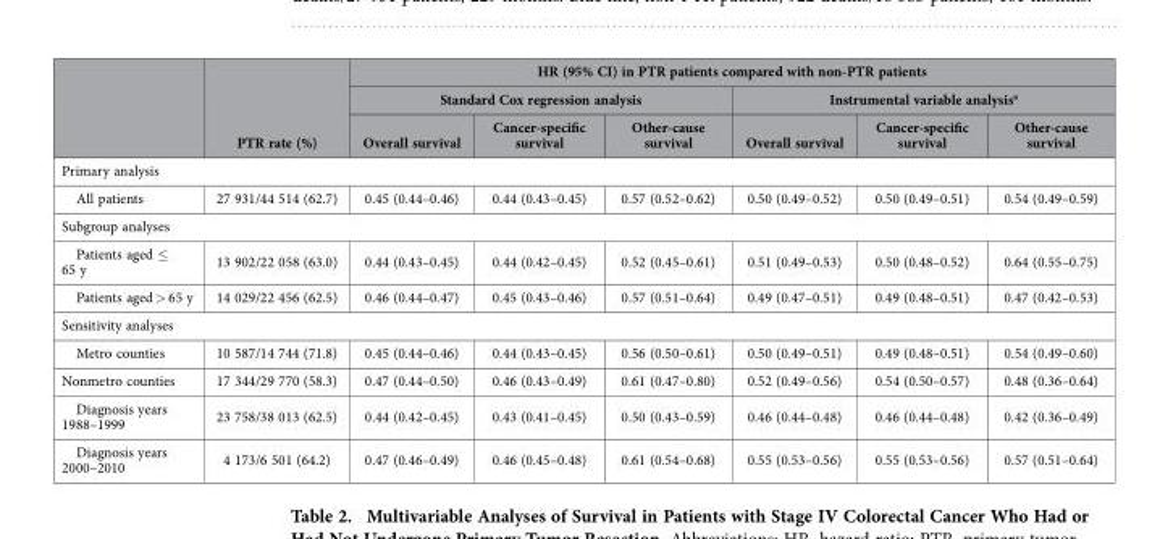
<table><thead><tr><td rowspan="3"></td><td rowspan="3">PTR rate (%)</td><td colspan="6">HR (95% CI) in PTR patients compared with non-PTR patients</td></tr><tr><td colspan="3">Standard Cox regression analysis</td><td colspan="3">Instrumental variable analysis<sup>a</sup></td></tr><tr><td>Overall survival</td><td>Cancer-specific survival</td><td>Other-cause survival</td><td>Overall survival</td><td>Cancer-specific survival</td><td>Other-cause survival</td></tr></thead><tbody><tr><td colspan="8">Primary analysis</td></tr><tr><td>All patients</td><td>27 931/44 514 (62.7)</td><td>0.45 (0.44–0.46)</td><td>0.44 (0.43–0.45)</td><td>0.57 (0.52–0.62)</td><td>0.50 (0.49–0.52)</td><td>0.50 (0.49–0.51)</td><td>0.54 (0.49–0.59)</td></tr><tr><td colspan="8">Subgroup analyses</td></tr><tr><td>Patients aged ≤ 65 y</td><td>13 902/22 058 (63.0)</td><td>0.44 (0.43–0.45)</td><td>0.44 (0.42–0.45)</td><td>0.52 (0.45–0.61)</td><td>0.51 (0.49–0.53)</td><td>0.50 (0.48–0.52)</td><td>0.64 (0.55–0.75)</td></tr><tr><td>Patients aged &gt; 65 y</td><td>14 029/22 456 (62.5)</td><td>0.46 (0.44–0.47)</td><td>0.45 (0.43–0.46)</td><td>0.57 (0.51–0.64)</td><td>0.49 (0.47–0.51)</td><td>0.49 (0.48–0.51)</td><td>0.47 (0.42–0.53)</td></tr><tr><td colspan="8">Sensitivity analyses</td></tr><tr><td>Metro counties</td><td>10 587/14 744 (71.8)</td><td>0.45 (0.44–0.46)</td><td>0.44 (0.43–0.45)</td><td>0.56 (0.50–0.61)</td><td>0.50 (0.49–0.51)</td><td>0.49 (0.48–0.51)</td><td>0.54 (0.49–0.60)</td></tr><tr><td>Nonmetro counties</td><td>17 344/29 770 (58.3)</td><td>0.47 (0.44–0.50)</td><td>0.46 (0.43–0.49)</td><td>0.61 (0.47–0.80)</td><td>0.52 (0.49–0.56)</td><td>0.54 (0.50–0.57)</td><td>0.48 (0.36–0.64)</td></tr><tr><td>Diagnosis years 1988–1999</td><td>23 758/38 013 (62.5)</td><td>0.44 (0.42–0.45)</td><td>0.43 (0.41–0.45)</td><td>0.50 (0.43–0.59)</td><td>0.46 (0.44–0.48)</td><td>0.46 (0.44–0.48)</td><td>0.42 (0.36–0.49)</td></tr><tr><td>Diagnosis years 2000–2010</td><td>4 173/6 501 (64.2)</td><td>0.47 (0.46–0.49)</td><td>0.46 (0.45–0.48)</td><td>0.61 (0.54–0.68)</td><td>0.55 (0.53–0.56)</td><td>0.55 (0.53–0.56)</td><td>0.57 (0.51–0.64)</td></tr></tbody></table>